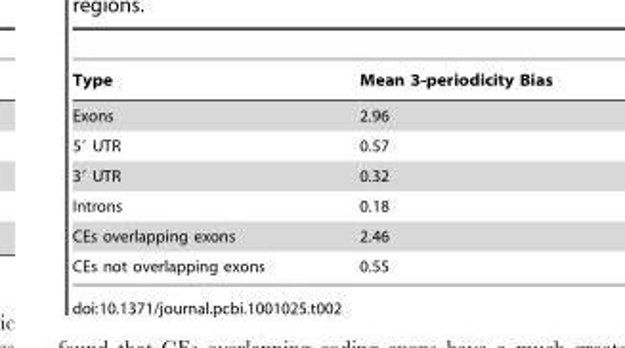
<table><thead><tr><td>Type</td><td>Mean 3-periodicity Bias</td></tr></thead><tbody><tr><td>Exons</td><td>2.96</td></tr><tr><td>5′ UTR</td><td>0.57</td></tr><tr><td>3′ UTR</td><td>0.32</td></tr><tr><td>Introns</td><td>0.18</td></tr><tr><td>CEs overlapping exons</td><td>2.46</td></tr><tr><td>CEs not overlapping exons</td><td>0.55</td></tr></tbody></table>